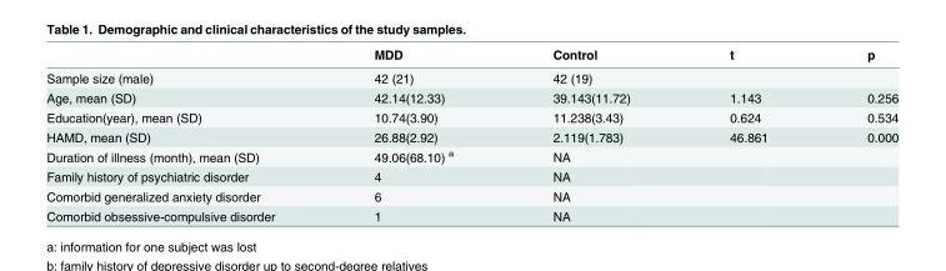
<table><thead><tr><td></td><td>MDD</td><td>Control</td><td>t</td><td>p</td></tr></thead><tbody><tr><td>Sample size (male)</td><td>42 (21)</td><td>42 (19)</td><td></td><td></td></tr><tr><td>Age, mean (SD)</td><td>42.14(12.33)</td><td>39.143(11.72)</td><td>1.143</td><td>0.256</td></tr><tr><td>Education(year), mean (SD)</td><td>10.74(3.90)</td><td>11.238(3.43)</td><td>0.624</td><td>0.534</td></tr><tr><td>HAMD, mean (SD)</td><td>26.88(2.92)</td><td>2.119(1.783)</td><td>46.861</td><td>0.000</td></tr><tr><td>Duration of illness (month), mean (SD)</td><td>49.06(68.10) <sup>a</sup></td><td>NA</td><td></td><td></td></tr><tr><td>Family history of psychiatric disorder</td><td>4</td><td>NA</td><td></td><td></td></tr><tr><td>Comorbid generalized anxiety disorder</td><td>6</td><td>NA</td><td></td><td></td></tr><tr><td>Comorbid obsessive-compulsive disorder</td><td>1</td><td>NA</td><td></td><td></td></tr></tbody></table>